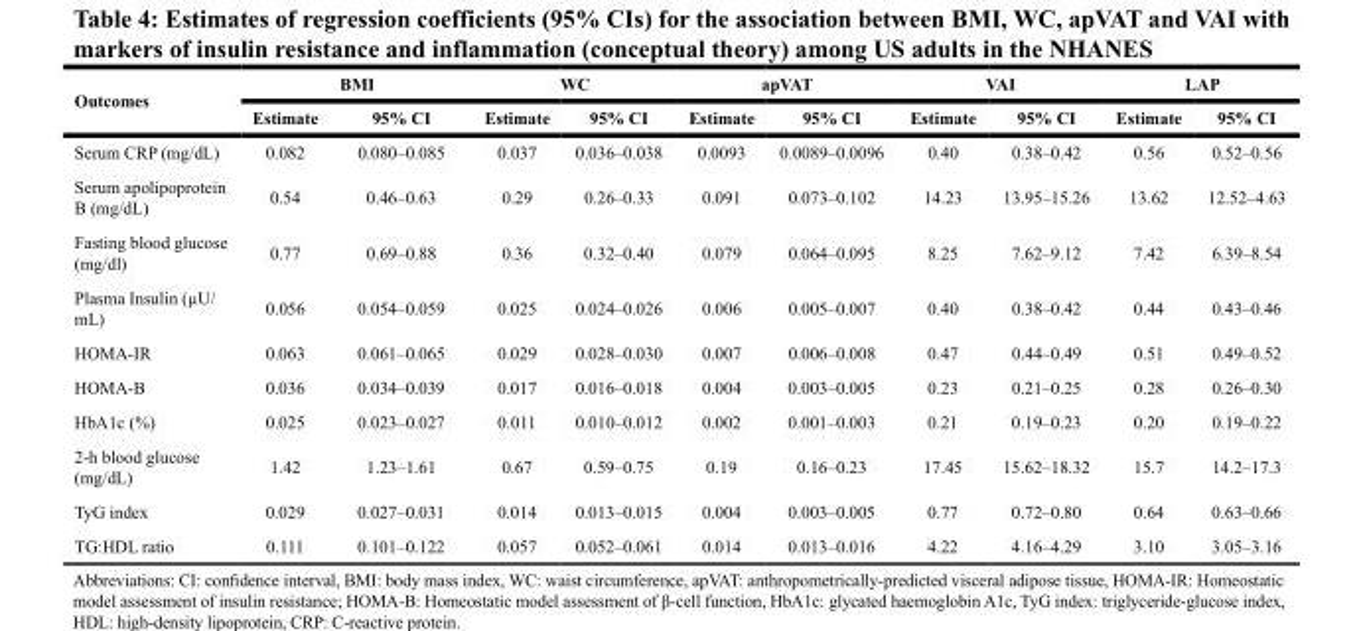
<table><thead><tr><td rowspan="2">outcomes</td><td colspan="2">bMI</td><td colspan="2">Wc</td><td colspan="2">apVAt</td><td colspan="2">VAI</td><td colspan="2">lAP</td></tr><tr><td>estimate</td><td>95% cI</td><td>estimate</td><td>95% cI</td><td>estimate</td><td>95% cI</td><td>estimate</td><td>95% cI</td><td>estimate</td><td>95% cI</td></tr></thead><tbody><tr><td>Serum CRP (mg/dL)</td><td>0.082</td><td>0.080–0.085</td><td>0.037</td><td>0.036–0.038</td><td>0.0093</td><td>0.0089–0.0096</td><td>0.40</td><td>0.38–0.42</td><td>0.56</td><td>0.52–0.56</td></tr><tr><td>Serum apolipoprotein B (mg/dL)</td><td>0.54</td><td>0.46–0.63</td><td>0.29</td><td>0.26–0.33</td><td>0.091</td><td>0.073–0.102</td><td>14.23</td><td>13.95–15.26</td><td>13.62</td><td>12.52–4.63</td></tr><tr><td>Fasting blood glucose (mg/dl)</td><td>0.77</td><td>0.69–0.88</td><td>0.36</td><td>0.32–0.40</td><td>0.079</td><td>0.064–0.095</td><td>8.25</td><td>7.62–9.12</td><td>7.42</td><td>6.39–8.54</td></tr><tr><td>Plasma Insulin (µU/ mL)</td><td>0.056</td><td>0.054–0.059</td><td>0.025</td><td>0.024–0.026</td><td>0.006</td><td>0.005–0.007</td><td>0.40</td><td>0.38–0.42</td><td>0.44</td><td>0.43–0.46</td></tr><tr><td>HOMA-IR</td><td>0.063</td><td>0.061–0.065</td><td>0.029</td><td>0.028–0.030</td><td>0.007</td><td>0.006–0.008</td><td>0.47</td><td>0.44–0.49</td><td>0.51</td><td>0.49–0.52</td></tr><tr><td>HOMA-B</td><td>0.036</td><td>0.034–0.039</td><td>0.017</td><td>0.016–0.018</td><td>0.004</td><td>0.003–0.005</td><td>0.23</td><td>0.21–0.25</td><td>0.28</td><td>0.26–0.30</td></tr><tr><td>HbA1c (%)</td><td>0.025</td><td>0.023–0.027</td><td>0.011</td><td>0.010–0.012</td><td>0.002</td><td>0.001–0.003</td><td>0.21</td><td>0.19–0.23</td><td>0.20</td><td>0.19–0.22</td></tr><tr><td>2-h blood glucose (mg/dL)</td><td>1.42</td><td>1.23–1.61</td><td>0.67</td><td>0.59–0.75</td><td>0.19</td><td>0.16–0.23</td><td>17.45</td><td>15.62–18.32</td><td>15.7</td><td>14.2–17.3</td></tr><tr><td>TyG index</td><td>0.029</td><td>0.027–0.031</td><td>0.014</td><td>0.013–0.015</td><td>0.004</td><td>0.003–0.005</td><td>0.77</td><td>0.72–0.80</td><td>0.64</td><td>0.63–0.66</td></tr><tr><td>TG:HDL ratio</td><td>0.111</td><td>0.101–0.122</td><td>0.057</td><td>0.052–0.061</td><td>0.014</td><td>0.013–0.016</td><td>4.22</td><td>4.16–4.29</td><td>3.10</td><td>3.05–3.16</td></tr></tbody></table>